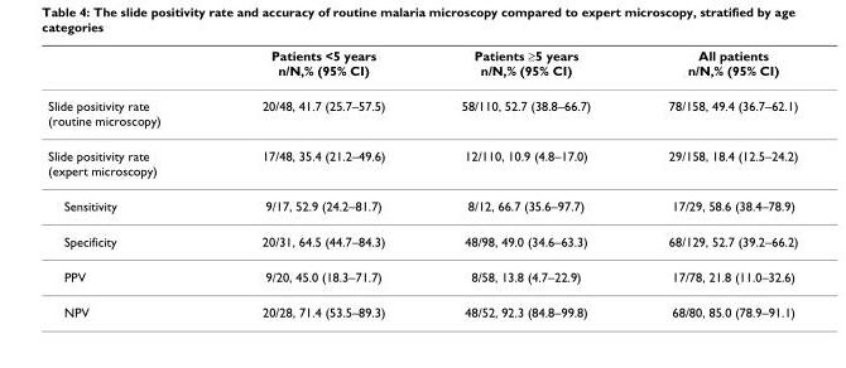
<table><thead><tr><td></td><td>Patients &lt;5 years n/N,% (95% CI)</td><td>Patients ≥5 years n/N,% (95% CI)</td><td>All patients n/N,% (95% CI)</td></tr></thead><tbody><tr><td>Slide positivity rate (routine microscopy)</td><td>20/48, 41.7 (25.7–57.5)</td><td>58/110, 52.7 (38.8–66.7)</td><td>78/158, 49.4 (36.7–62.1)</td></tr><tr><td>Slide positivity rate (expert microscopy)</td><td>17/48, 35.4 (21.2–49.6)</td><td>12/110, 10.9 (4.8–17.0)</td><td>29/158, 18.4 (12.5–24.2)</td></tr><tr><td>Sensitivity</td><td>9/17, 52.9 (24.2–81.7)</td><td>8/12, 66.7 (35.6–97.7)</td><td>17/29, 58.6 (38.4–78.9)</td></tr><tr><td>Specificity</td><td>20/31, 64.5 (44.7–84.3)</td><td>48/98, 49.0 (34.6–63.3)</td><td>68/129, 52.7 (39.2–66.2)</td></tr><tr><td>PPV</td><td>9/20, 45.0 (18.3–71.7)</td><td>8/58, 13.8 (4.7–22.9)</td><td>17/78, 21.8 (11.0–32.6)</td></tr><tr><td>NPV</td><td>20/28, 71.4 (53.5–89.3)</td><td>48/52, 92.3 (84.8–99.8)</td><td>68/80, 85.0 (78.9–91.1)</td></tr></tbody></table>